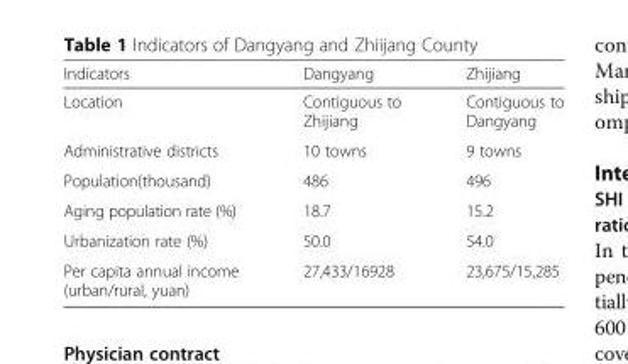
<table><thead><tr><td>Indicators</td><td>Dangyang</td><td>Zhijiang</td></tr></thead><tbody><tr><td>Location</td><td>Contiguous to Zhijiang</td><td>Contiguous to Dangyang</td></tr><tr><td>Administrative districts</td><td>10 towns</td><td>9 towns</td></tr><tr><td>Population(thousand)</td><td>486</td><td>496</td></tr><tr><td>Aging population rate (%)</td><td>18.7</td><td>15.2</td></tr><tr><td>Urbanization rate (%)</td><td>50.0</td><td>54.0</td></tr><tr><td>Per capita annual income (urban/rural, yuan)</td><td>27,433/16928</td><td>23,675/15,285</td></tr></tbody></table>